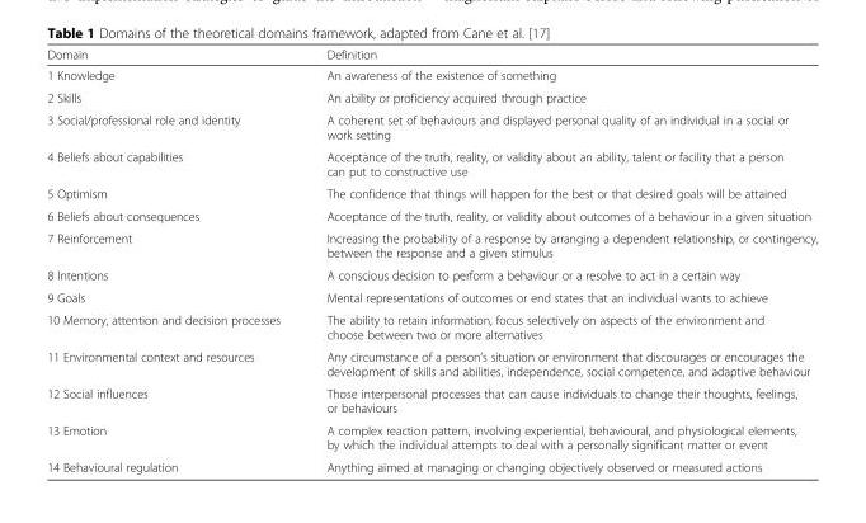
<table><thead><tr><td>Domain</td><td>Definition</td></tr></thead><tbody><tr><td>1 Knowledge</td><td>An awareness of the existence of something</td></tr><tr><td>2 Skills</td><td>An ability or proficiency acquired through practice</td></tr><tr><td>3 Social/professional role and identity</td><td>A coherent set of behaviours and displayed personal quality of an individual in a social or work setting</td></tr><tr><td>4 Beliefs about capabilities</td><td>Acceptance of the truth, reality, or validity about an ability, talent or facility that a person can put to constructive use</td></tr><tr><td>5 Optimism</td><td>The confidence that things will happen for the best or that desired goals will be attained</td></tr><tr><td>6 Beliefs about consequences</td><td>Acceptance of the truth, reality, or validity about outcomes of a behaviour in a given situation</td></tr><tr><td>7 Reinforcement</td><td>Increasing the probability of a response by arranging a dependent relationship, or contingency, between the response and a given stimulus</td></tr><tr><td>8 Intentions</td><td>A conscious decision to perform a behaviour or a resolve to act in a certain way</td></tr><tr><td>9 Goals</td><td>Mental representations of outcomes or end states that an individual wants to achieve</td></tr><tr><td>10 Memory, attention and decision processes</td><td>The ability to retain information, focus selectively on aspects of the environment and choose between two or more alternatives</td></tr><tr><td>11 Environmental context and resources</td><td>Any circumstance of a person’s situation or environment that discourages or encourages the development of skills and abilities, independence, social competence, and adaptive behaviour</td></tr><tr><td>12 Social influences</td><td>Those interpersonal processes that can cause individuals to change their thoughts, feelings, or behaviours</td></tr><tr><td>13 Emotion</td><td>A complex reaction pattern, involving experiential, behavioural, and physiological elements, by which the individual attempts to deal with a personally significant matter or event</td></tr><tr><td>14 Behavioural regulation</td><td>Anything aimed at managing or changing objectively observed or measured actions</td></tr></tbody></table>